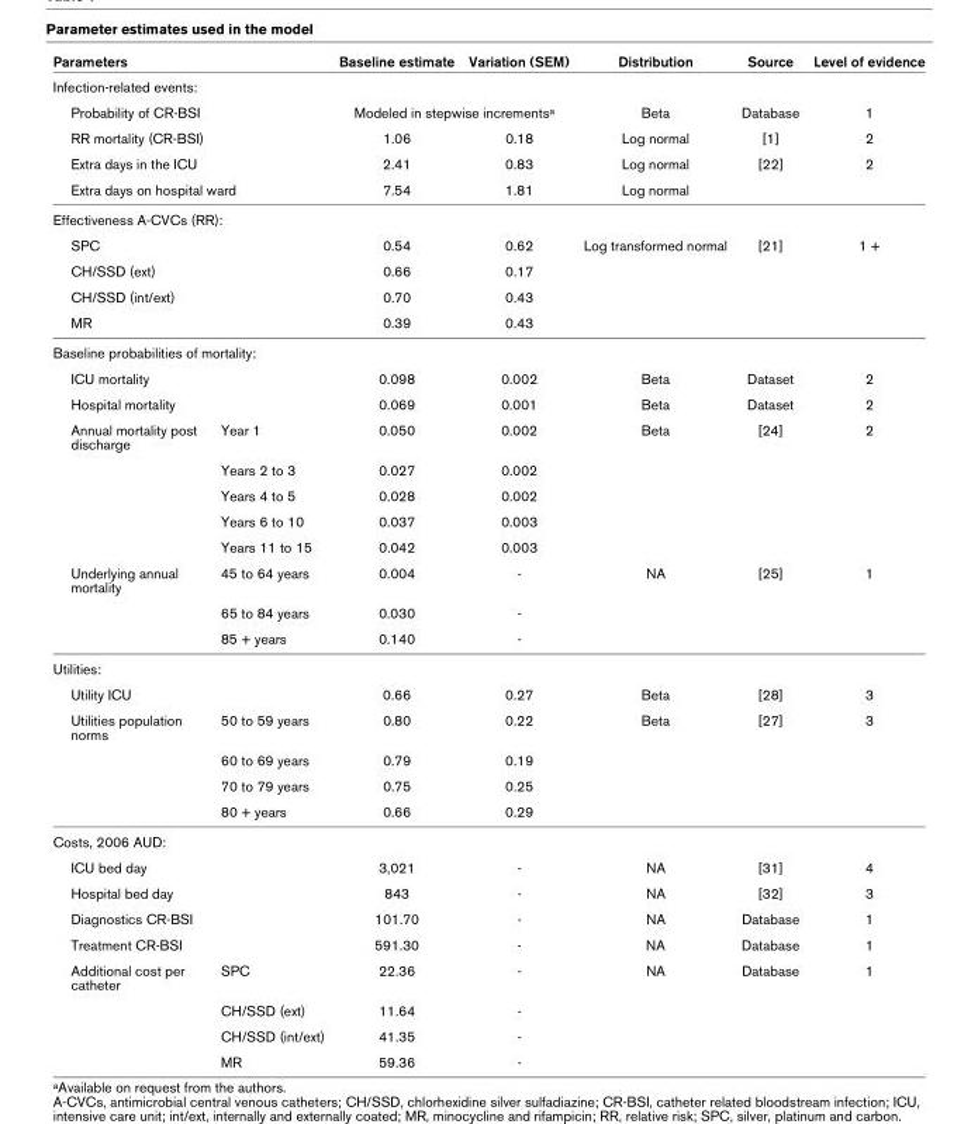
<table><thead><tr><td colspan="2">Parameters</td><td>Baseline estimate</td><td>Variation (SEM)</td><td>Distribution</td><td>Source</td><td>Level of evidence</td></tr></thead><tbody><tr><td colspan="7">Infection-related events:</td></tr><tr><td colspan="2">Probability of CR-BSI</td><td colspan="2">Modeled in stepwise increments<sup>a</sup></td><td>Beta</td><td>Database</td><td>1</td></tr><tr><td colspan="2">RR mortality (CR-BSI)</td><td>1.06</td><td>0.18</td><td>Log normal</td><td>[1]</td><td>2</td></tr><tr><td colspan="2">Extra days in the ICU</td><td>2.41</td><td>0.83</td><td>Log normal</td><td>[22]</td><td>2</td></tr><tr><td colspan="2">Extra days on hospital ward</td><td>7.54</td><td>1.81</td><td>Log normal</td><td></td><td></td></tr><tr><td colspan="7">Effectiveness A-CVCs (RR):</td></tr><tr><td colspan="2">SPC</td><td>0.54</td><td>0.62</td><td>Log transformed normal</td><td>[21]</td><td>1 +</td></tr><tr><td colspan="2">CH/SSD (ext)</td><td>0.66</td><td>0.17</td><td></td><td></td><td></td></tr><tr><td colspan="2">CH/SSD (int/ext)</td><td>0.70</td><td>0.43</td><td></td><td></td><td></td></tr><tr><td colspan="2">MR</td><td>0.39</td><td>0.43</td><td></td><td></td><td></td></tr><tr><td colspan="7">Baseline probabilities of mortality:</td></tr><tr><td colspan="2">ICU mortality</td><td>0.098</td><td>0.002</td><td>Beta</td><td>Dataset</td><td>2</td></tr><tr><td colspan="2">Hospital mortality</td><td>0.069</td><td>0.001</td><td>Beta</td><td>Dataset</td><td>2</td></tr><tr><td rowspan="5">Annual mortality post discharge</td><td>Year 1</td><td>0.050</td><td>0.002</td><td>Beta</td><td>[24]</td><td>2</td></tr><tr><td>Years 2 to 3</td><td>0.027</td><td>0.002</td><td></td><td></td><td></td></tr><tr><td>Years 4 to 5</td><td>0.028</td><td>0.002</td><td></td><td></td><td></td></tr><tr><td>Years 6 to 10</td><td>0.037</td><td>0.003</td><td></td><td></td><td></td></tr><tr><td>Years 11 to 15</td><td>0.042</td><td>0.003</td><td></td><td></td><td></td></tr><tr><td rowspan="3">Underlying annual mortality</td><td>45 to 64 years</td><td>0.004</td><td>-</td><td>NA</td><td>[25]</td><td>1</td></tr><tr><td>65 to 84 years</td><td>0.030</td><td>-</td><td></td><td></td><td></td></tr><tr><td>85 + years</td><td>0.140</td><td>-</td><td></td><td></td><td></td></tr><tr><td colspan="7">Utilities:</td></tr><tr><td colspan="2">Utility ICU</td><td>0.66</td><td>0.27</td><td>Beta</td><td>[28]</td><td>3</td></tr><tr><td rowspan="4">Utilities population norms</td><td>50 to 59 years</td><td>0.80</td><td>0.22</td><td>Beta</td><td>[27]</td><td>3</td></tr><tr><td>60 to 69 years</td><td>0.79</td><td>0.19</td><td></td><td></td><td></td></tr><tr><td>70 to 79 years</td><td>0.75</td><td>0.25</td><td></td><td></td><td></td></tr><tr><td>80 + years</td><td>0.66</td><td>0.29</td><td></td><td></td><td></td></tr><tr><td colspan="7">Costs, 2006 AUD:</td></tr><tr><td colspan="2">ICU bed day</td><td>3,021</td><td>-</td><td>NA</td><td>[31]</td><td>4</td></tr><tr><td colspan="2">Hospital bed day</td><td>843</td><td>-</td><td>NA</td><td>[32]</td><td>3</td></tr><tr><td colspan="2">Diagnostics CR-BSI</td><td>101.70</td><td>-</td><td>NA</td><td>Database</td><td>1</td></tr><tr><td colspan="2">Treatment CR-BSI</td><td>591.30</td><td>-</td><td>NA</td><td>Database</td><td>1</td></tr><tr><td rowspan="4">Additional cost per catheter</td><td>SPC</td><td>22.36</td><td>-</td><td>NA</td><td>Database</td><td>1</td></tr><tr><td>CH/SSD (ext)</td><td>11.64</td><td>-</td><td></td><td></td><td></td></tr><tr><td>CH/SSD (int/ext)</td><td>41.35</td><td>-</td><td></td><td></td><td></td></tr><tr><td>MR</td><td>59.36</td><td>-</td><td></td><td></td><td></td></tr></tbody></table>